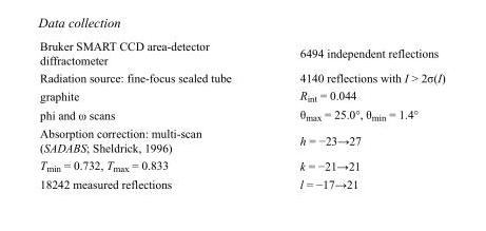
<table><tbody><tr><td>Bruker SMART CCD area-detector diffractometer</td><td>6494 independent reflections</td></tr><tr><td>Radiation source: fine-focus sealed tube</td><td>4140 reflections with I &gt; 2σ(I)</td></tr><tr><td>graphite</td><td>R<sub>int</sub> = 0.044</td></tr><tr><td>phi and ω scans</td><td>θ<sub>max</sub> = 25.0°, θ<sub>min</sub> = 1.4°</td></tr><tr><td>Absorption correction: multi-scan (SADABS; Sheldrick, 1996)</td><td>h = −23→27</td></tr><tr><td>T<sub>min</sub> = 0.732, T<sub>max</sub> = 0.833</td><td>k = −21→21</td></tr><tr><td>18242 measured reflections</td><td>l = −17→21</td></tr></tbody></table>